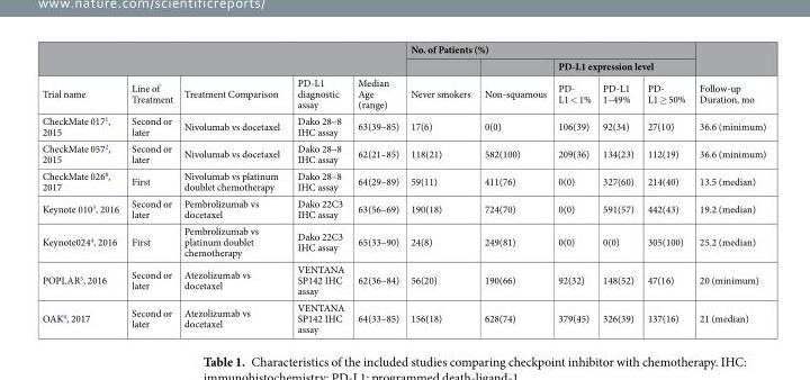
<table><thead><tr><td rowspan="3">Trial name</td><td rowspan="3">Line of Treatment</td><td rowspan="3">Treatment Comparison</td><td rowspan="3">PD-L1 diagnostic assay</td><td rowspan="3">Median Age (range)</td><td colspan="5">No. of Patients (%)</td><td rowspan="3">Follow-up Duration, mo</td></tr><tr><td rowspan="2">Never smokers</td><td rowspan="2">Non-squamous</td><td colspan="3">PD-L1 expression level</td></tr><tr><td>PD- L1 &lt; 1%</td><td>PD-L1 1–49%</td><td>PD- L1 ≥ 50%</td></tr></thead><tbody><tr><td>CheckMate 017<sup>1</sup>, 2015</td><td>Second or later</td><td>Nivolumab vs docetaxel</td><td>Dako 28–8 IHC assay</td><td>63(39–85)</td><td>17(6)</td><td>0(0)</td><td>106(39)</td><td>92(34)</td><td>27(10)</td><td>36.6 (minimum)</td></tr><tr><td>CheckMate 057<sup>2</sup>, 2015</td><td>Second or later</td><td>Nivolumab vs docetaxel</td><td>Dako 28–8 IHC assay</td><td>62(21–85)</td><td>118(21)</td><td>582(100)</td><td>209(36)</td><td>134(23)</td><td>112(19)</td><td>36.6 (minimum)</td></tr><tr><td>CheckMate 026<sup>8</sup>, 2017</td><td>First</td><td>Nivolumab vs platinum doublet chemotherapy</td><td>Dako 28–8 IHC assay</td><td>64(29–89)</td><td>59(11)</td><td>411(76)</td><td>0(0)</td><td>327(60)</td><td>214(40)</td><td>13.5 (median)</td></tr><tr><td>Keynote 010<sup>3</sup>, 2016</td><td>Second or later</td><td>Pembrolizumab vs docetaxel</td><td>Dako 22C3 IHC assay</td><td>63(56–69)</td><td>190(18)</td><td>724(70)</td><td>0(0)</td><td>591(57)</td><td>442(43)</td><td>19.2 (median)</td></tr><tr><td>Keynote024<sup>4</sup>, 2016</td><td>First</td><td>Pembrolizumab vs platinum doublet chemotherapy</td><td>Dako 22C3 IHC assay</td><td>65(33–90)</td><td>24(8)</td><td>249(81)</td><td>0(0)</td><td>0(0)</td><td>305(100)</td><td>25.2 (median)</td></tr><tr><td>POPLAR<sup>5</sup>, 2016</td><td>Second or later</td><td>Atezolizumab vs docetaxel</td><td>VENTANA SP142 IHC assay</td><td>62(36–84)</td><td>56(20)</td><td>190(66)</td><td>92(32)</td><td>148(52)</td><td>47(16)</td><td>20 (minimum)</td></tr><tr><td>OAK<sup>6</sup>, 2017</td><td>Second or later</td><td>Atezolizumab vs docetaxel</td><td>VENTANA SP142 IHC assay</td><td>64(33–85)</td><td>156(18)</td><td>628(74)</td><td>379(45)</td><td>326(39)</td><td>137(16)</td><td>21 (median)</td></tr></tbody></table>